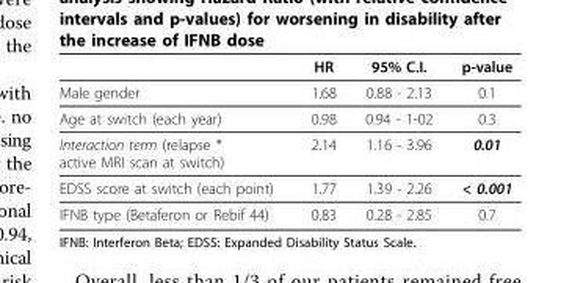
<table><thead><tr><td></td><td>HR</td><td>95% C.I.</td><td>p-value</td></tr></thead><tbody><tr><td>Male gender</td><td>1.68</td><td>0.88 - 2.13</td><td>0.1</td></tr><tr><td>Age at switch (each year)</td><td>0.98</td><td>0.94 - 1-02</td><td>0.3</td></tr><tr><td>Interaction term (relapse * active MRI scan at switch)</td><td>2.14</td><td>1.16 - 3.96</td><td>0.01</td></tr><tr><td>EDSS score at switch (each point)</td><td>1.77</td><td>1.39 - 2.26</td><td>&lt; 0.001</td></tr><tr><td>IFNB type (Betaferon or Rebif 44)</td><td>0.83</td><td>0.28 - 2.85</td><td>0.7</td></tr></tbody></table>